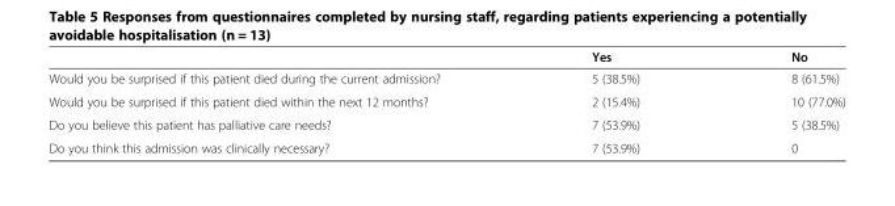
<table><thead><tr><td></td><td>Yes</td><td>No</td></tr></thead><tbody><tr><td>Would you be surprised if this patient died during the current admission?</td><td>5 (38.5%)</td><td>8 (61.5%)</td></tr><tr><td>Would you be surprised if this patient died within the next 12 months?</td><td>2 (15.4%)</td><td>10 (77.0%)</td></tr><tr><td>Do you believe this patient has palliative care needs?</td><td>7 (53.9%)</td><td>5 (38.5%)</td></tr><tr><td>Do you think this admission was clinically necessary?</td><td>7 (53.9%)</td><td>0</td></tr></tbody></table>